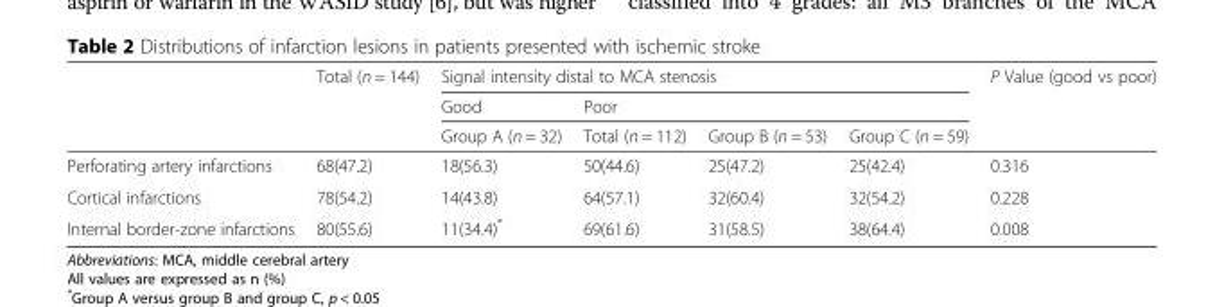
<table><thead><tr><td rowspan="3"></td><td rowspan="3">Total (n = 144)</td><td colspan="4">Signal intensity distal to MCA stenosis</td><td rowspan="3">P Value (good vs poor)</td></tr><tr><td rowspan="2">Good Group A (n = 32)</td><td colspan="3">Poor</td></tr><tr><td>Total (n = 112)</td><td>Group B (n = 53)</td><td>Group C (n = 59)</td></tr></thead><tbody><tr><td>Perforating artery infarctions</td><td>68(47.2)</td><td>18(56.3)</td><td>50(44.6)</td><td>25(47.2)</td><td>25(42.4)</td><td>0.316</td></tr><tr><td>Cortical infarctions</td><td>78(54.2)</td><td>14(43.8)</td><td>64(57.1)</td><td>32(60.4)</td><td>32(54.2)</td><td>0.228</td></tr><tr><td>Internal border-zone infarctions</td><td>80(55.6)</td><td>11(34.4)*</td><td>69(61.6)</td><td>31(58.5)</td><td>38(64.4)</td><td>0.008</td></tr></tbody></table>